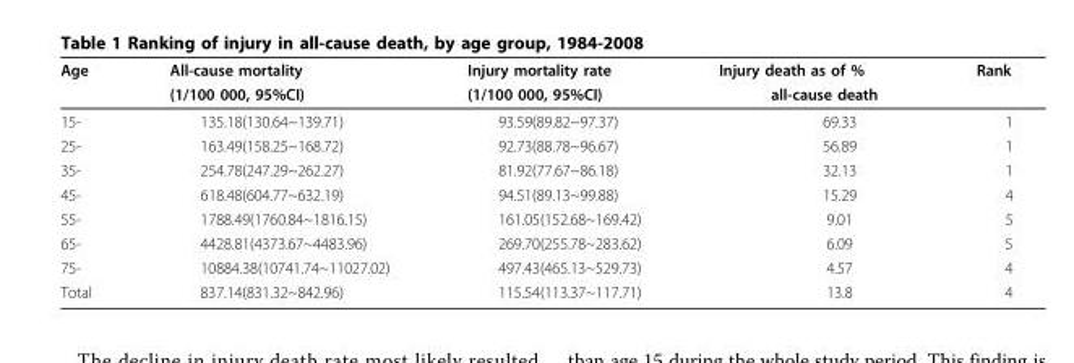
<table><thead><tr><td rowspan="2">Age</td><td rowspan="2">All-cause mortality (1/100 000, 95%CI)</td><td rowspan="2">Injury mortality rate (1/100 000, 95%CI)</td><td rowspan="2">Injury death as of % all-cause death</td><td rowspan="2">Rank</td></tr><tr></tr></thead><tbody><tr><td>15-</td><td>135.18(130.64~139.71)</td><td>93.59(89.82~97.37)</td><td>69.33</td><td>1</td></tr><tr><td>25-</td><td>163.49(158.25~168.72)</td><td>92.73(88.78~96.67)</td><td>56.89</td><td>1</td></tr><tr><td>35-</td><td>254.78(247.29~262.27)</td><td>81.92(77.67~86.18)</td><td>32.13</td><td>1</td></tr><tr><td>45-</td><td>618.48(604.77~632.19)</td><td>94.51(89.13~99.88)</td><td>15.29</td><td>4</td></tr><tr><td>55-</td><td>1788.49(1760.84~1816.15)</td><td>161.05(152.68~169.42)</td><td>9.01</td><td>5</td></tr><tr><td>65-</td><td>4428.81(4373.67~4483.96)</td><td>269.70(255.78~283.62)</td><td>6.09</td><td>5</td></tr><tr><td>75-</td><td>10884.38(10741.74~11027.02)</td><td>497.43(465.13~529.73)</td><td>4.57</td><td>4</td></tr><tr><td>Total</td><td>837.14(831.32~842.96)</td><td>115.54(113.37~117.71)</td><td>13.8</td><td>4</td></tr></tbody></table>